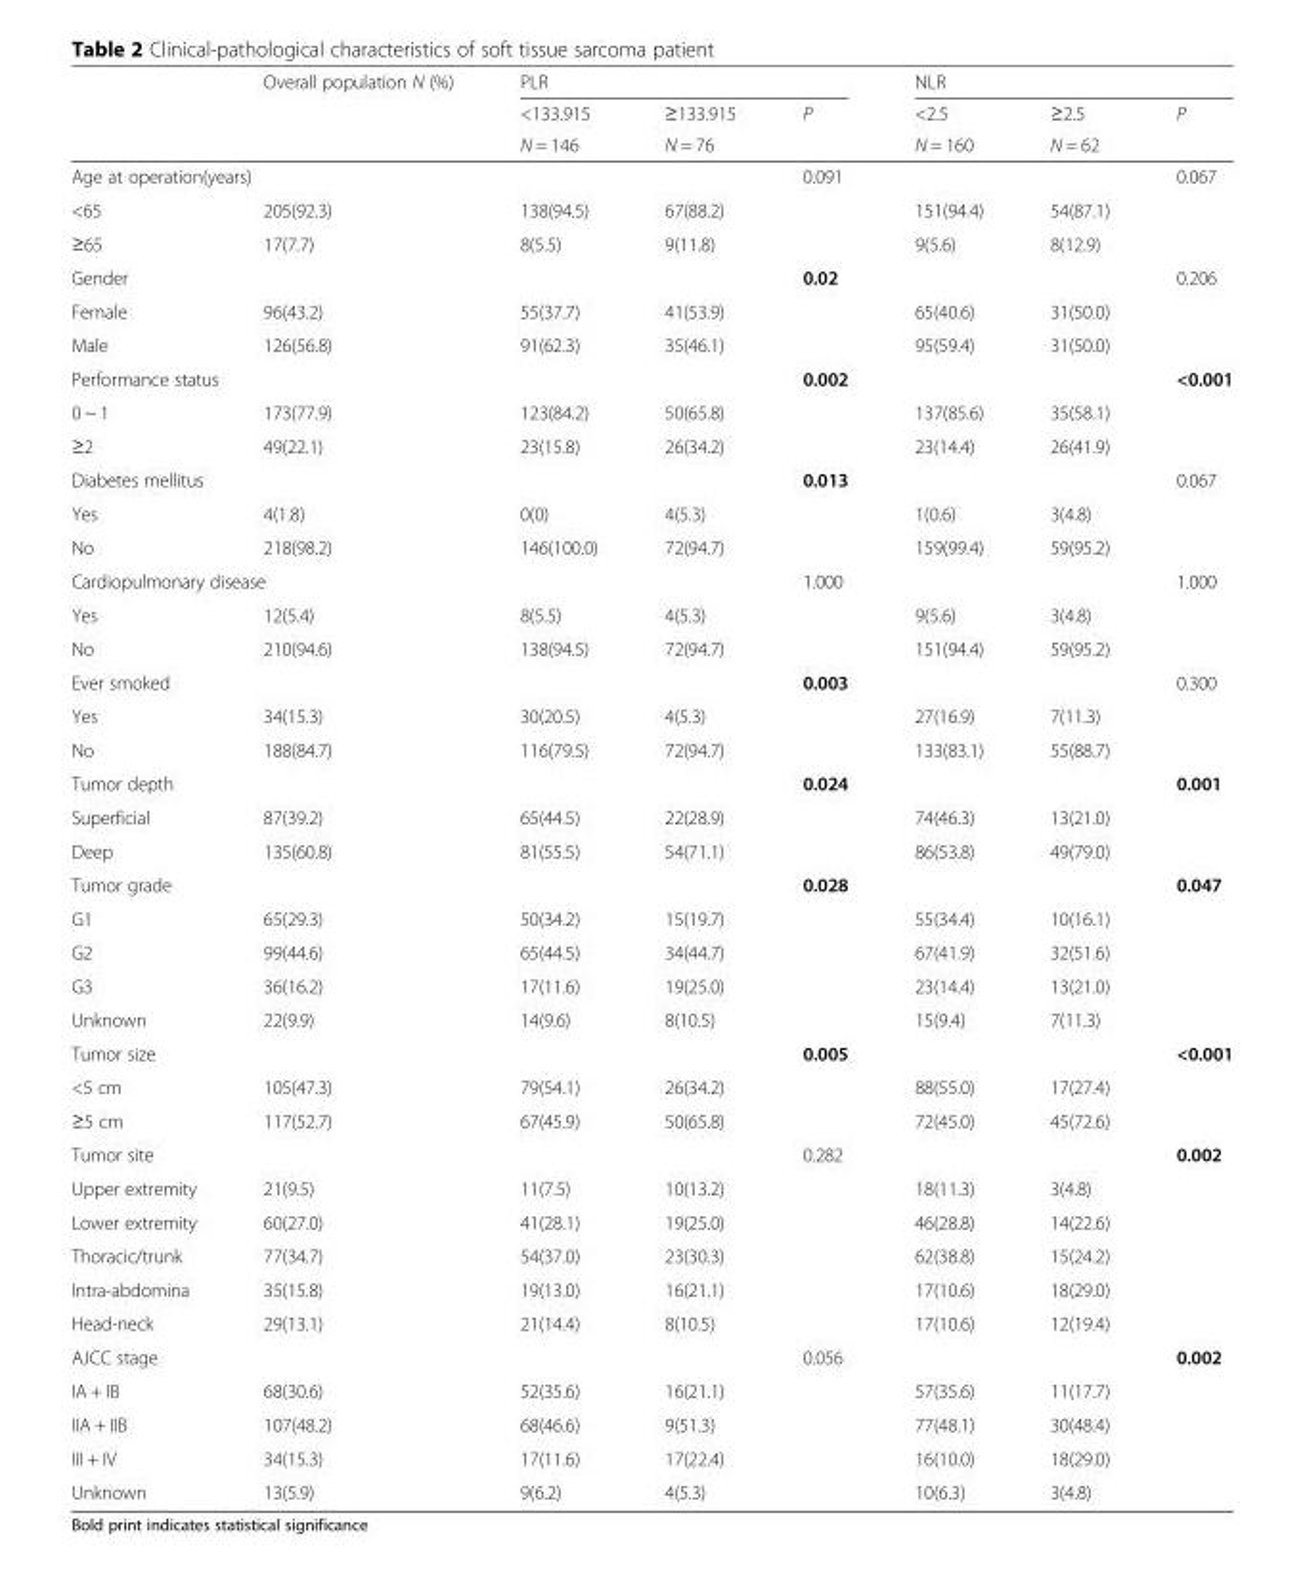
<table><thead><tr><td rowspan="3"></td><td rowspan="3">Overall population N (%)</td><td colspan="3">PLR</td><td colspan="3">NLR</td></tr><tr><td rowspan="2">&lt;133.915 N = 146</td><td rowspan="2">≥133.915 N = 76</td><td rowspan="2">P</td><td rowspan="2">&lt;2.5 N = 160</td><td rowspan="2">≥2.5 N = 62</td><td rowspan="2">P</td></tr><tr></tr></thead><tbody><tr><td colspan="2">Age at operation(years)</td><td></td><td></td><td>0.091</td><td></td><td></td><td>0.067</td></tr><tr><td>&lt;65</td><td>205(92.3)</td><td>138(94.5)</td><td>67(88.2)</td><td></td><td>151(94.4)</td><td>54(87.1)</td><td rowspan="2"></td></tr><tr><td>≥65</td><td>17(7.7)</td><td>8(5.5)</td><td>9(11.8)</td><td></td><td>9(5.6)</td><td>8(12.9)</td></tr><tr><td colspan="2">Gender</td><td></td><td></td><td>0.02</td><td></td><td></td><td>0.206</td></tr><tr><td>Female</td><td>96(43.2)</td><td>55(37.7)</td><td>41(53.9)</td><td></td><td>65(40.6)</td><td>31(50.0)</td><td rowspan="2"></td></tr><tr><td>Male</td><td>126(56.8)</td><td>91(62.3)</td><td>35(46.1)</td><td></td><td>95(59.4)</td><td>31(50.0)</td></tr><tr><td colspan="2">Performance status</td><td></td><td></td><td>0.002</td><td></td><td></td><td>&lt;0.001</td></tr><tr><td>0 ~ 1</td><td>173(77.9)</td><td>123(84.2)</td><td>50(65.8)</td><td></td><td>137(85.6)</td><td>35(58.1)</td><td rowspan="2"></td></tr><tr><td>≥2</td><td>49(22.1)</td><td>23(15.8)</td><td>26(34.2)</td><td></td><td>23(14.4)</td><td>26(41.9)</td></tr><tr><td colspan="2">Diabetes mellitus</td><td></td><td></td><td>0.013</td><td></td><td></td><td>0.067</td></tr><tr><td>Yes</td><td>4(1.8)</td><td>0(0)</td><td>4(5.3)</td><td></td><td>1(0.6)</td><td>3(4.8)</td><td rowspan="2"></td></tr><tr><td>No</td><td>218(98.2)</td><td>146(100.0)</td><td>72(94.7)</td><td></td><td>159(99.4)</td><td>59(95.2)</td></tr><tr><td colspan="2">Cardiopulmonary disease</td><td></td><td></td><td>1.000</td><td></td><td></td><td>1.000</td></tr><tr><td>Yes</td><td>12(5.4)</td><td>8(5.5)</td><td>4(5.3)</td><td></td><td>9(5.6)</td><td>3(4.8)</td><td rowspan="2"></td></tr><tr><td>No</td><td>210(94.6)</td><td>138(94.5)</td><td>72(94.7)</td><td></td><td>151(94.4)</td><td>59(95.2)</td></tr><tr><td colspan="2">Ever smoked</td><td></td><td></td><td>0.003</td><td></td><td></td><td>0.300</td></tr><tr><td>Yes</td><td>34(15.3)</td><td>30(20.5)</td><td>4(5.3)</td><td></td><td>27(16.9)</td><td>7(11.3)</td><td rowspan="2"></td></tr><tr><td>No</td><td>188(84.7)</td><td>116(79.5)</td><td>72(94.7)</td><td></td><td>133(83.1)</td><td>55(88.7)</td></tr><tr><td colspan="2">Tumor depth</td><td></td><td></td><td>0.024</td><td></td><td></td><td>0.001</td></tr><tr><td>Superficial</td><td>87(39.2)</td><td>65(44.5)</td><td>22(28.9)</td><td></td><td>74(46.3)</td><td>13(21.0)</td><td rowspan="2"></td></tr><tr><td>Deep</td><td>135(60.8)</td><td>81(55.5)</td><td>54(71.1)</td><td></td><td>86(53.8)</td><td>49(79.0)</td></tr><tr><td colspan="2">Tumor grade</td><td></td><td></td><td>0.028</td><td></td><td></td><td>0.047</td></tr><tr><td>G1</td><td>65(29.3)</td><td>50(34.2)</td><td>15(19.7)</td><td></td><td>55(34.4)</td><td>10(16.1)</td><td rowspan="4"></td></tr><tr><td>G2</td><td>99(44.6)</td><td>65(44.5)</td><td>34(44.7)</td><td></td><td>67(41.9)</td><td>32(51.6)</td></tr><tr><td>G3</td><td>36(16.2)</td><td>17(11.6)</td><td>19(25.0)</td><td></td><td>23(14.4)</td><td>13(21.0)</td></tr><tr><td>Unknown</td><td>22(9.9)</td><td>14(9.6)</td><td>8(10.5)</td><td></td><td>15(9.4)</td><td>7(11.3)</td></tr><tr><td colspan="2">Tumor size</td><td></td><td></td><td>0.005</td><td></td><td></td><td>&lt;0.001</td></tr><tr><td>&lt;5 cm</td><td>105(47.3)</td><td>79(54.1)</td><td>26(34.2)</td><td></td><td>88(55.0)</td><td>17(27.4)</td><td rowspan="2"></td></tr><tr><td>≥5 cm</td><td>117(52.7)</td><td>67(45.9)</td><td>50(65.8)</td><td></td><td>72(45.0)</td><td>45(72.6)</td></tr><tr><td colspan="2">Tumor site</td><td></td><td></td><td>0.282</td><td></td><td></td><td>0.002</td></tr><tr><td>Upper extremity</td><td>21(9.5)</td><td>11(7.5)</td><td>10(13.2)</td><td></td><td>18(11.3)</td><td>3(4.8)</td><td rowspan="5"></td></tr><tr><td>Lower extremity</td><td>60(27.0)</td><td>41(28.1)</td><td>19(25.0)</td><td></td><td>46(28.8)</td><td>14(22.6)</td></tr><tr><td>Thoracic/trunk</td><td>77(34.7)</td><td>54(37.0)</td><td>23(30.3)</td><td></td><td>62(38.8)</td><td>15(24.2)</td></tr><tr><td>Intra-abdomina</td><td>35(15.8)</td><td>19(13.0)</td><td>16(21.1)</td><td></td><td>17(10.6)</td><td>18(29.0)</td></tr><tr><td>Head-neck</td><td>29(13.1)</td><td>21(14.4)</td><td>8(10.5)</td><td></td><td>17(10.6)</td><td>12(19.4)</td></tr><tr><td colspan="2">AJCC stage</td><td></td><td></td><td>0.056</td><td></td><td></td><td>0.002</td></tr><tr><td>IA + IB</td><td>68(30.6)</td><td>52(35.6)</td><td>16(21.1)</td><td></td><td>57(35.6)</td><td>11(17.7)</td><td rowspan="4"></td></tr><tr><td>IIA + IIB</td><td>107(48.2)</td><td>68(46.6)</td><td>9(51.3)</td><td></td><td>77(48.1)</td><td>30(48.4)</td></tr><tr><td>III + IV</td><td>34(15.3)</td><td>17(11.6)</td><td>17(22.4)</td><td></td><td>16(10.0)</td><td>18(29.0)</td></tr><tr><td>Unknown</td><td>13(5.9)</td><td>9(6.2)</td><td>4(5.3)</td><td></td><td>10(6.3)</td><td>3(4.8)</td></tr></tbody></table>